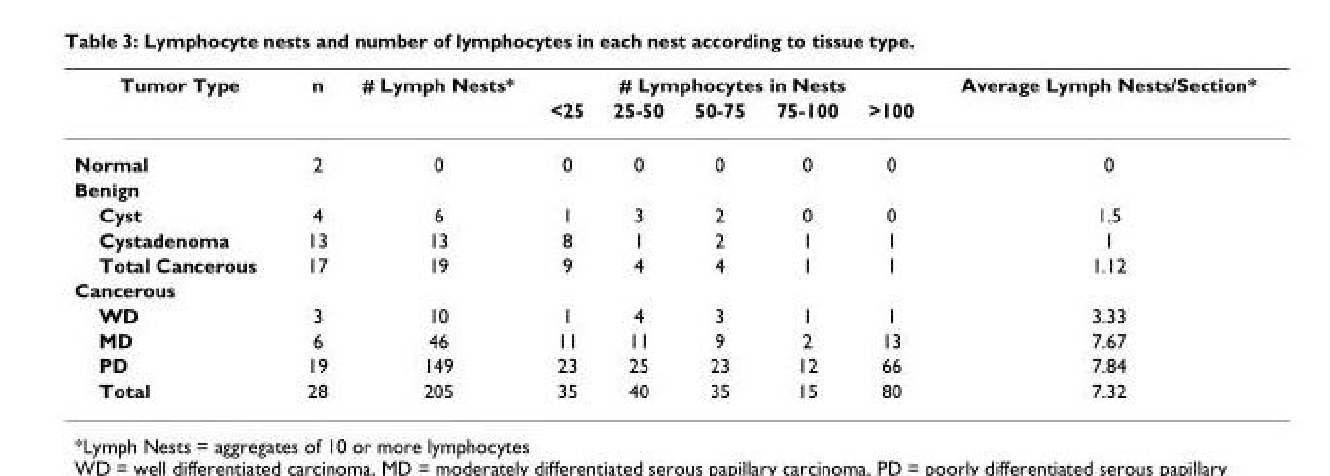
<table><thead><tr><td rowspan="2">Tumor Type</td><td rowspan="2">n</td><td rowspan="2"># Lymph Nests*</td><td colspan="5"># Lymphocytes in Nests</td><td rowspan="2">Average Lymph Nests/Section*</td></tr><tr><td>&lt;25</td><td>25-50</td><td>50-75</td><td>75-100</td><td>&gt;100</td></tr></thead><tbody><tr><td>Normal</td><td>2</td><td>0</td><td>0</td><td>0</td><td>0</td><td>0</td><td>0</td><td>0</td></tr><tr><td colspan="9">Benign</td></tr><tr><td>Cyst</td><td>4</td><td>6</td><td>1</td><td>3</td><td>2</td><td>0</td><td>0</td><td>1.5</td></tr><tr><td>Cystadenoma</td><td>13</td><td>13</td><td>8</td><td>1</td><td>2</td><td>1</td><td>1</td><td>1</td></tr><tr><td>Total Cancerous</td><td>17</td><td>19</td><td>9</td><td>4</td><td>4</td><td>1</td><td>1</td><td>1.12</td></tr><tr><td colspan="9">Cancerous</td></tr><tr><td>WD</td><td>3</td><td>10</td><td>1</td><td>4</td><td>3</td><td>1</td><td>1</td><td>3.33</td></tr><tr><td>MD</td><td>6</td><td>46</td><td>11</td><td>11</td><td>9</td><td>2</td><td>13</td><td>7.67</td></tr><tr><td>PD</td><td>19</td><td>149</td><td>23</td><td>25</td><td>23</td><td>12</td><td>66</td><td>7.84</td></tr><tr><td>Total</td><td>28</td><td>205</td><td>35</td><td>40</td><td>35</td><td>15</td><td>80</td><td>7.32</td></tr></tbody></table>